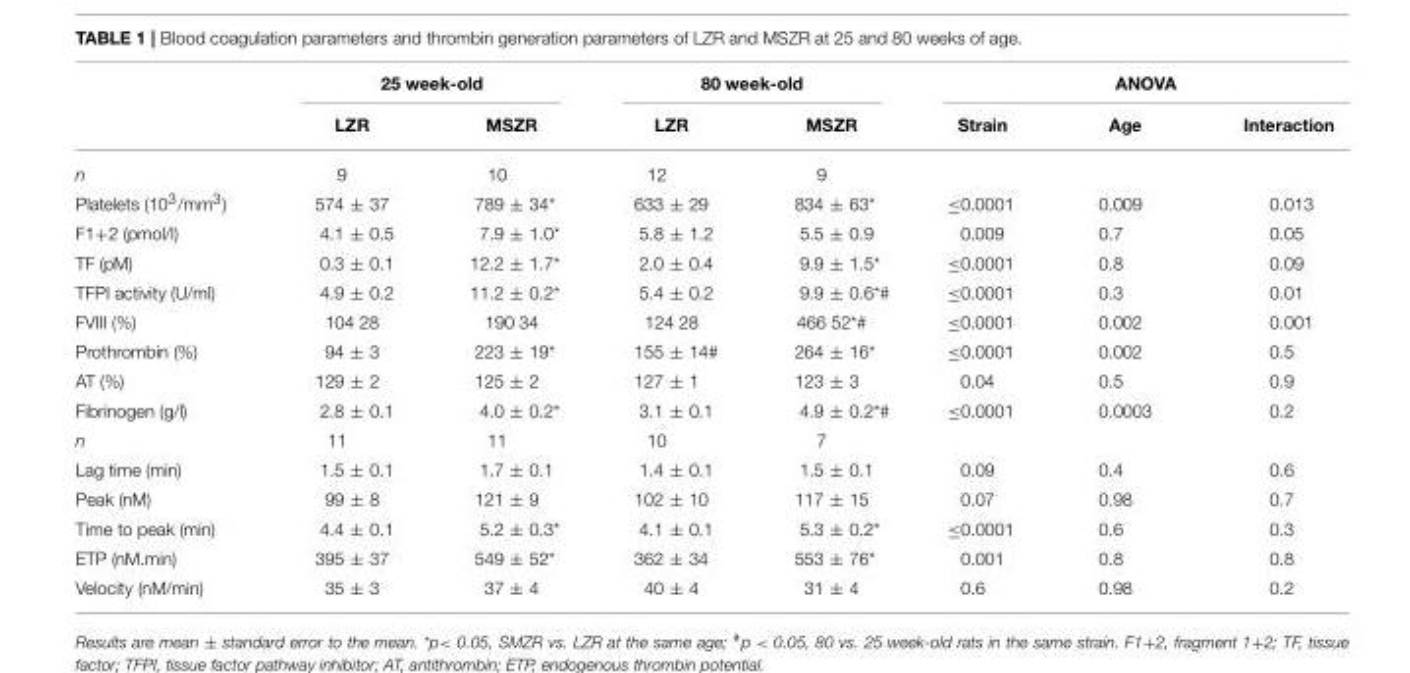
<table><thead><tr><td rowspan="2"></td><td colspan="2">25 week-old</td><td colspan="2">80 week-old</td><td colspan="3">ANOVA</td></tr><tr><td>LZR</td><td>MSZR</td><td>LZR</td><td>MSZR</td><td>Strain</td><td>Age</td><td>Interaction</td></tr></thead><tbody><tr><td>n</td><td>9</td><td>10</td><td>12</td><td>9</td><td></td><td></td><td></td></tr><tr><td>Platelets (10<sup>3</sup>/mm<sup>3</sup>)</td><td>574 ± 37</td><td>789 ± 34*</td><td>633 ± 29</td><td>834 ± 63*</td><td>≤0.0001</td><td>0.009</td><td>0.013</td></tr><tr><td>F1+2 (pmol/l)</td><td>4.1 ± 0.5</td><td>7.9 ± 1.0*</td><td>5.8 ± 1.2</td><td>5.5 ± 0.9</td><td>0.009</td><td>0.7</td><td>0.05</td></tr><tr><td>TF (pM)</td><td>0.3 ± 0.1</td><td>12.2 ± 1.7*</td><td>2.0 ± 0.4</td><td>9.9 ± 1.5*</td><td>≤0.0001</td><td>0.8</td><td>0.09</td></tr><tr><td>TFPI activity (U/ml)</td><td>4.9 ± 0.2</td><td>11.2 ± 0.2*</td><td>5.4 ± 0.2</td><td>9.9 ± 0.6<sup>*#</sup></td><td>≤0.0001</td><td>0.3</td><td>0.01</td></tr><tr><td>FVIII (%)</td><td>104 28</td><td>190 34</td><td>124 28</td><td>466 52<sup>*#</sup></td><td>≤0.0001</td><td>0.002</td><td>0.001</td></tr><tr><td>Prothrombin (%)</td><td>94 ± 3</td><td>223 ± 19*</td><td>155 ± 14<sup>#</sup></td><td>264 ± 16*</td><td>≤0.0001</td><td>0.002</td><td>0.5</td></tr><tr><td>AT (%)</td><td>129 ± 2</td><td>125 ± 2</td><td>127 ± 1</td><td>123 ± 3</td><td>0.04</td><td>0.5</td><td>0.9</td></tr><tr><td>Fibrinogen (g/l)</td><td>2.8 ± 0.1</td><td>4.0 ± 0.2*</td><td>3.1 ± 0.1</td><td>4.9 ± 0.2<sup>*#</sup></td><td>≤0.0001</td><td>0.0003</td><td>0.2</td></tr><tr><td>n</td><td>11</td><td>11</td><td>10</td><td>7</td><td></td><td></td><td></td></tr><tr><td>Lag time (min)</td><td>1.5 ± 0.1</td><td>1.7 ± 0.1</td><td>1.4 ± 0.1</td><td>1.5 ± 0.1</td><td>0.09</td><td>0.4</td><td>0.6</td></tr><tr><td>Peak (nM)</td><td>99 ± 8</td><td>121 ± 9</td><td>102 ± 10</td><td>117 ± 15</td><td>0.07</td><td>0.98</td><td>0.7</td></tr><tr><td>Time to peak (min)</td><td>4.4 ± 0.1</td><td>5.2 ± 0.3*</td><td>4.1 ± 0.1</td><td>5.3 ± 0.2*</td><td>≤0.0001</td><td>0.6</td><td>0.3</td></tr><tr><td>ETP (nM.min)</td><td>395 ± 37</td><td>549 ± 52*</td><td>362 ± 34</td><td>553 ± 76*</td><td>0.001</td><td>0.8</td><td>0.8</td></tr><tr><td>Velocity (nM/min)</td><td>35 ± 3</td><td>37 ± 4</td><td>40 ± 4</td><td>31 ± 4</td><td>0.6</td><td>0.98</td><td>0.2</td></tr></tbody></table>